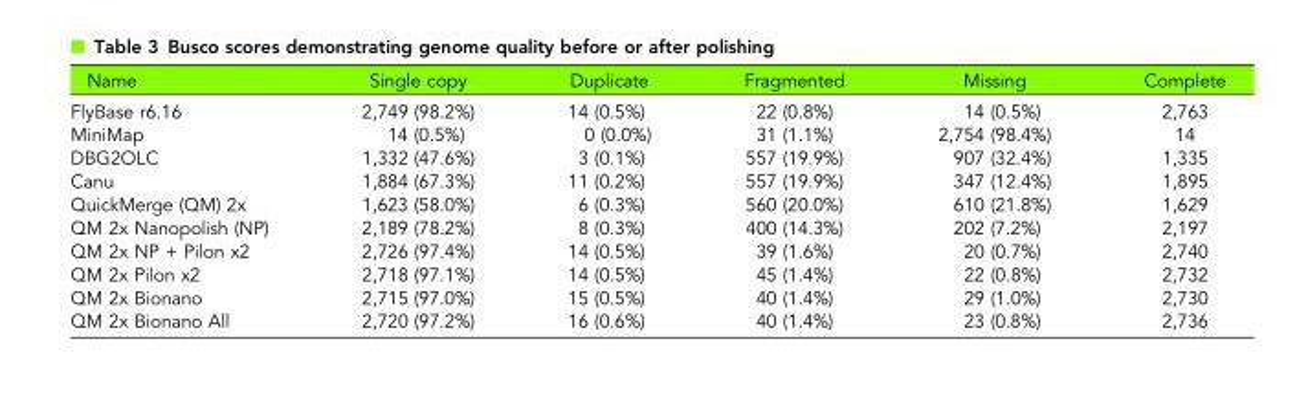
<table><thead><tr><td>Name</td><td>Single copy</td><td>Duplicate</td><td>Fragmented</td><td>Missing</td><td>Complete</td></tr></thead><tbody><tr><td>FlyBase r6.16</td><td>2,749 (98.2%)</td><td>14 (0.5%)</td><td>22 (0.8%)</td><td>14 (0.5%)</td><td>2,763</td></tr><tr><td>MiniMap</td><td>14 (0.5%)</td><td>0 (0.0%)</td><td>31 (1.1%)</td><td>2,754 (98.4%)</td><td>14</td></tr><tr><td>DBG2OLC</td><td>1,332 (47.6%)</td><td>3 (0.1%)</td><td>557 (19.9%)</td><td>907 (32.4%)</td><td>1,335</td></tr><tr><td>Canu</td><td>1,884 (67.3%)</td><td>11 (0.2%)</td><td>557 (19.9%)</td><td>347 (12.4%)</td><td>1,895</td></tr><tr><td>QuickMerge (QM) 2x</td><td>1,623 (58.0%)</td><td>6 (0.3%)</td><td>560 (20.0%)</td><td>610 (21.8%)</td><td>1,629</td></tr><tr><td>QM 2x Nanopolish (NP)</td><td>2,189 (78.2%)</td><td>8 (0.3%)</td><td>400 (14.3%)</td><td>202 (7.2%)</td><td>2,197</td></tr><tr><td>QM 2x NP + Pilon x2</td><td>2,726 (97.4%)</td><td>14 (0.5%)</td><td>39 (1.6%)</td><td>20 (0.7%)</td><td>2,740</td></tr><tr><td>QM 2x Pilon x2</td><td>2,718 (97.1%)</td><td>14 (0.5%)</td><td>45 (1.4%)</td><td>22 (0.8%)</td><td>2,732</td></tr><tr><td>QM 2x Bionano</td><td>2,715 (97.0%)</td><td>15 (0.5%)</td><td>40 (1.4%)</td><td>29 (1.0%)</td><td>2,730</td></tr><tr><td>QM 2x Bionano All</td><td>2,720 (97.2%)</td><td>16 (0.6%)</td><td>40 (1.4%)</td><td>23 (0.8%)</td><td>2,736</td></tr></tbody></table>